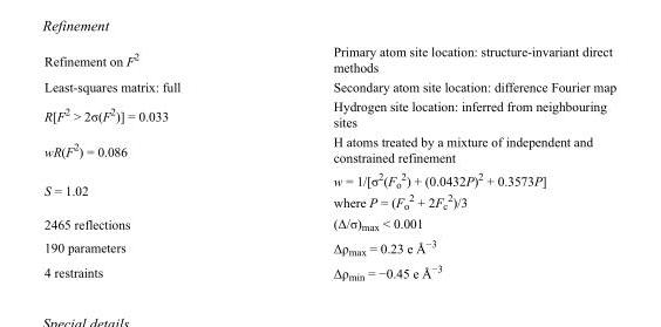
<table><tbody><tr><td>Refinement on F<sup>2</sup></td><td>Primary atom site location: structure-invariant direct methods</td></tr><tr><td>Least-squares matrix: full</td><td>Secondary atom site location: difference Fourier map</td></tr><tr><td>R[F<sup>2</sup> &gt; 2σ(F<sup>2</sup>)] = 0.033</td><td>Hydrogen site location: inferred from neighbouring sites</td></tr><tr><td>wR(F<sup>2</sup>) = 0.086</td><td>H atoms treated by a mixture of independent and constrained refinement</td></tr><tr><td>S = 1.02</td><td>w = 1/[σ<sup>2</sup>(F<sub>o</sub> <sup>2</sup>) + (0.0432P)<sup>2</sup> + 0.3573P] where P = (F<sub>o</sub> <sup>2</sup> + 2F<sub>c</sub> <sup>2</sup>)/3</td></tr><tr><td>2465 reflections</td><td>(Δ/σ)<sub>max</sub> &lt; 0.001</td></tr><tr><td>190 parameters</td><td>Δρ<sub>max</sub> = 0.23 e Å<sup>−3</sup></td></tr><tr><td>4 restraints</td><td>Δρ<sub>min</sub> = −0.45 e Å<sup>−3</sup></td></tr></tbody></table>